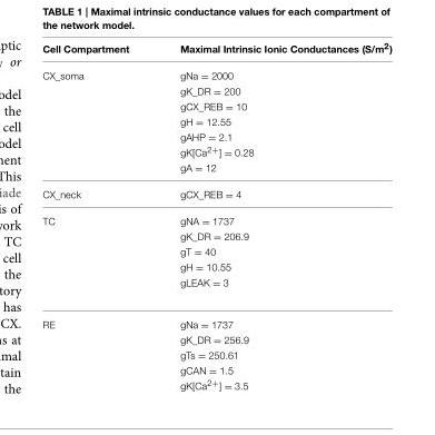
<table><thead><tr><td>Cell Compartment</td><td>Maximal Intrinsic Ionic Conductances (S/m<sup>2</sup>)</td></tr></thead><tbody><tr><td rowspan="7">CX_soma</td><td>gNa = 2000</td></tr><tr><td>gK_DR = 200</td></tr><tr><td>gCX_REB = 10</td></tr><tr><td>gH = 12.55</td></tr><tr><td>gAHP = 2.1</td></tr><tr><td>gK[Ca<sup>2+</sup>] = 0.28</td></tr><tr><td>gA = 12</td></tr><tr><td>CX_neck</td><td>gCX_REB = 4</td></tr><tr><td rowspan="5">TC</td><td>gNA = 1737</td></tr><tr><td>gK_DR = 206.9</td></tr><tr><td>gT = 40</td></tr><tr><td>gH = 10.55</td></tr><tr><td>gLEAK = 3</td></tr><tr><td rowspan="5">RE</td><td>gNa = 1737</td></tr><tr><td>gK_DR = 256.9</td></tr><tr><td>gTs = 250.61</td></tr><tr><td>gCAN = 1.5</td></tr><tr><td>gK[Ca<sup>2+</sup>] = 3.5</td></tr></tbody></table>